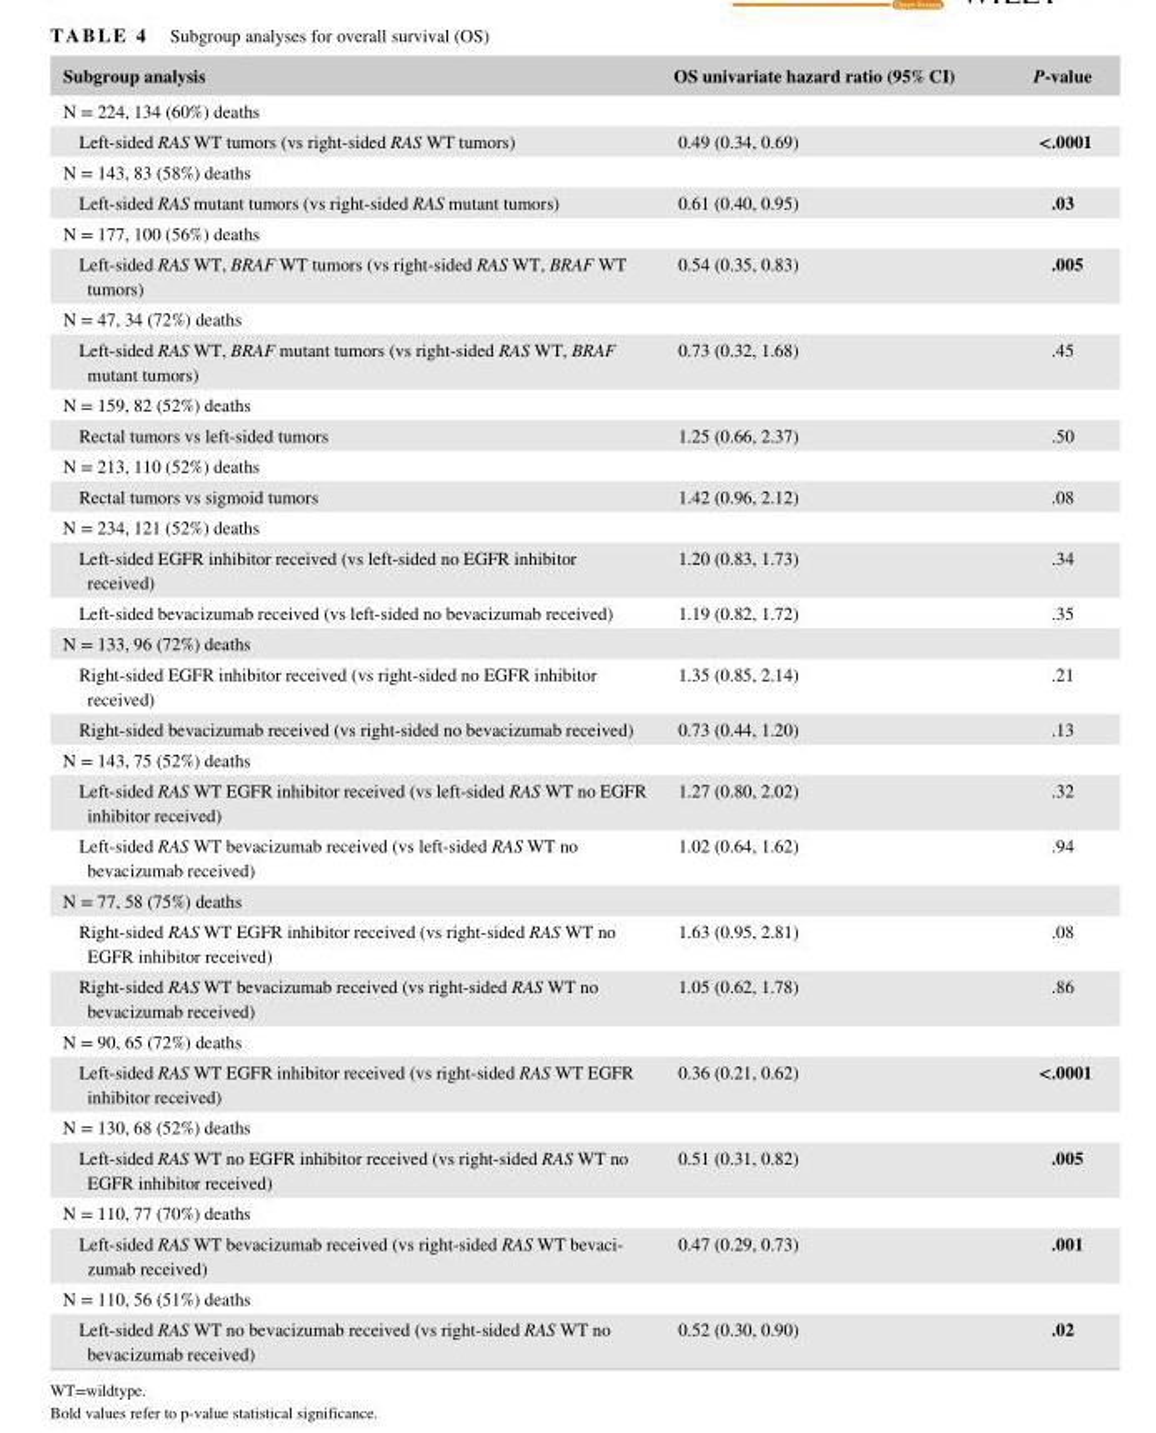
<table><thead><tr><td>Subgroup analysis</td><td>OS univariate hazard ratio (95% CI)</td><td>P- value</td></tr></thead><tbody><tr><td colspan="3">N = 224, 134 (60%) deaths</td></tr><tr><td>Left- sided RAS WT tumors (vs right- sided RAS WT tumors)</td><td>0.49 (0.34, 0.69)</td><td>&lt;.0001</td></tr><tr><td colspan="3">N = 143, 83 (58%) deaths</td></tr><tr><td>Left- sided RAS mutant tumors (vs right- sided RAS mutant tumors)</td><td>0.61 (0.40, 0.95)</td><td>.03</td></tr><tr><td colspan="3">N = 177, 100 (56%) deaths</td></tr><tr><td>Left- sided RAS WT, BRAF WT tumors (vs right- sided RAS WT, BRAF WT tumors)</td><td>0.54 (0.35, 0.83)</td><td>.005</td></tr><tr><td colspan="3">N = 47, 34 (72%) deaths</td></tr><tr><td>Left- sided RAS WT, BRAF mutant tumors (vs right- sided RAS WT, BRAF mutant tumors)</td><td>0.73 (0.32, 1.68)</td><td>.45</td></tr><tr><td colspan="3">N = 159, 82 (52%) deaths</td></tr><tr><td>Rectal tumors vs left- sided tumors</td><td>1.25 (0.66, 2.37)</td><td>.50</td></tr><tr><td colspan="3">N = 213, 110 (52%) deaths</td></tr><tr><td>Rectal tumors vs sigmoid tumors</td><td>1.42 (0.96, 2.12)</td><td>.08</td></tr><tr><td colspan="3">N = 234, 121 (52%) deaths</td></tr><tr><td>Left- sided EGFR inhibitor received (vs left- sided no EGFR inhibitor received)</td><td>1.20 (0.83, 1.73)</td><td>.34</td></tr><tr><td>Left- sided bevacizumab received (vs left- sided no bevacizumab received)</td><td>1.19 (0.82, 1.72)</td><td>.35</td></tr><tr><td colspan="3">N = 133, 96 (72%) deaths</td></tr><tr><td>Right- sided EGFR inhibitor received (vs right- sided no EGFR inhibitor received)</td><td>1.35 (0.85, 2.14)</td><td>.21</td></tr><tr><td>Right- sided bevacizumab received (vs right- sided no bevacizumab received)</td><td>0.73 (0.44, 1.20)</td><td>.13</td></tr><tr><td colspan="3">N = 143, 75 (52%) deaths</td></tr><tr><td>Left- sided RAS WT EGFR inhibitor received (vs left- sided RAS WT no EGFR inhibitor received)</td><td>1.27 (0.80, 2.02)</td><td>.32</td></tr><tr><td>Left- sided RAS WT bevacizumab received (vs left- sided RAS WT no bevacizumab received)</td><td>1.02 (0.64, 1.62)</td><td>.94</td></tr><tr><td colspan="3">N = 77, 58 (75%) deaths</td></tr><tr><td>Right- sided RAS WT EGFR inhibitor received (vs right- sided RAS WT no EGFR inhibitor received)</td><td>1.63 (0.95, 2.81)</td><td>.08</td></tr><tr><td>Right- sided RAS WT bevacizumab received (vs right- sided RAS WT no bevacizumab received)</td><td>1.05 (0.62, 1.78)</td><td>.86</td></tr><tr><td colspan="3">N = 90, 65 (72%) deaths</td></tr><tr><td>Left- sided RAS WT EGFR inhibitor received (vs right- sided RAS WT EGFR inhibitor received)</td><td>0.36 (0.21, 0.62)</td><td>&lt;.0001</td></tr><tr><td colspan="3">N = 130, 68 (52%) deaths</td></tr><tr><td>Left- sided RAS WT no EGFR inhibitor received (vs right- sided RAS WT no EGFR inhibitor received)</td><td>0.51 (0.31, 0.82)</td><td>.005</td></tr><tr><td colspan="3">N = 110, 77 (70%) deaths</td></tr><tr><td>Left- sided RAS WT bevacizumab received (vs right- sided RAS WT bevaci- zumab received)</td><td>0.47 (0.29, 0.73)</td><td>.001</td></tr><tr><td colspan="3">N = 110, 56 (51%) deaths</td></tr><tr><td>Left- sided RAS WT no bevacizumab received (vs right- sided RAS WT no bevacizumab received)</td><td>0.52 (0.30, 0.90)</td><td>.02</td></tr></tbody></table>